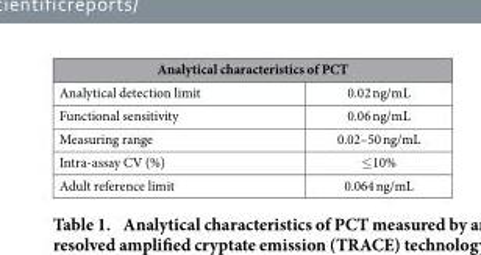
<table><thead><tr><td colspan="2">Analytical characteristics of PCT</td></tr><tr><td>Analytical detection limit</td><td>0.02 ng/mL</td></tr></thead><tbody><tr><td>Functional sensitivity</td><td>0.06 ng/mL</td></tr><tr><td>Measuring range</td><td>0.02–50 ng/mL</td></tr><tr><td>Intra-assay CV (%)</td><td>≤ 10%</td></tr><tr><td>Adult reference limit</td><td>0.064 ng/mL</td></tr></tbody></table>